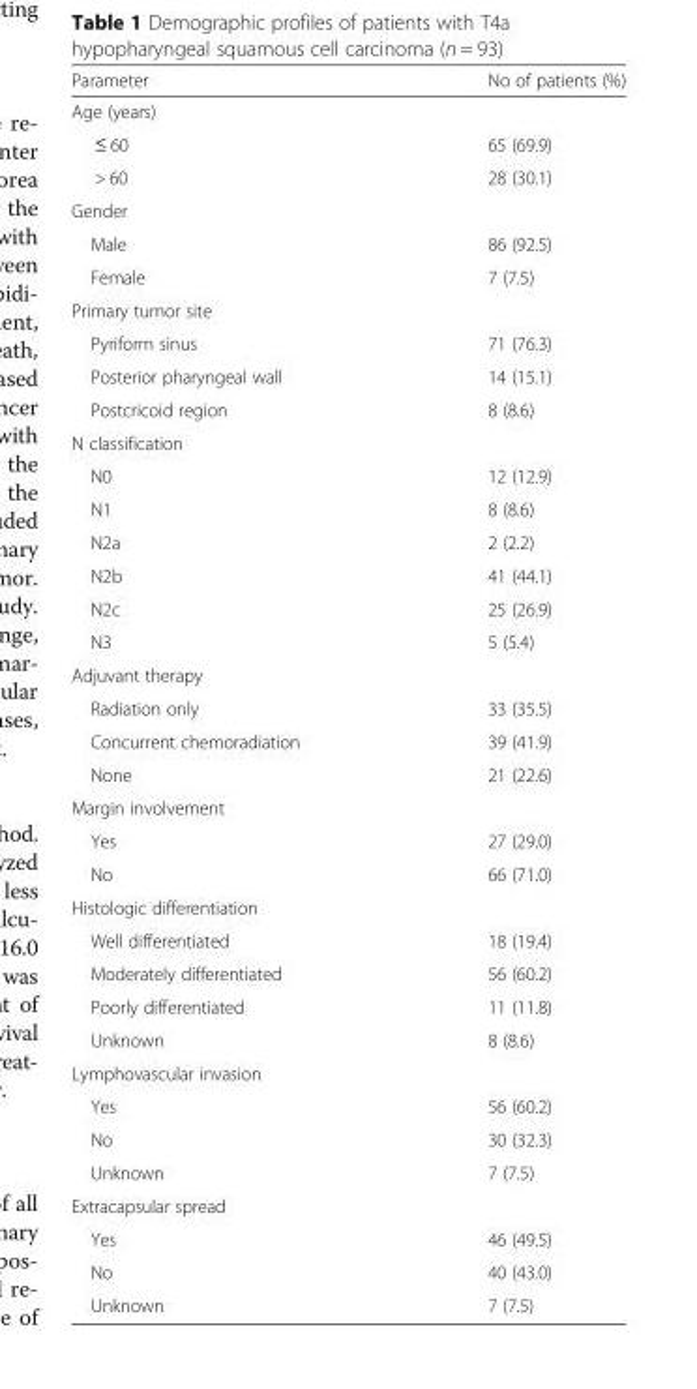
<table><thead><tr><td>Parameter</td><td>No of patients (%)</td></tr></thead><tbody><tr><td colspan="2">Age (years)</td></tr><tr><td>≤ 60</td><td>65 (69.9)</td></tr><tr><td>&gt; 60</td><td>28 (30.1)</td></tr><tr><td colspan="2">Gender</td></tr><tr><td>Male</td><td>86 (92.5)</td></tr><tr><td>Female</td><td>7 (7.5)</td></tr><tr><td colspan="2">Primary tumor site</td></tr><tr><td>Pyriform sinus</td><td>71 (76.3)</td></tr><tr><td>Posterior pharyngeal wall</td><td>14 (15.1)</td></tr><tr><td>Postcricoid region</td><td>8 (8.6)</td></tr><tr><td colspan="2">N classification</td></tr><tr><td>N0</td><td>12 (12.9)</td></tr><tr><td>N1</td><td>8 (8.6)</td></tr><tr><td>N2a</td><td>2 (2.2)</td></tr><tr><td>N2b</td><td>41 (44.1)</td></tr><tr><td>N2c</td><td>25 (26.9)</td></tr><tr><td>N3</td><td>5 (5.4)</td></tr><tr><td colspan="2">Adjuvant therapy</td></tr><tr><td>Radiation only</td><td>33 (35.5)</td></tr><tr><td>Concurrent chemoradiation</td><td>39 (41.9)</td></tr><tr><td>None</td><td>21 (22.6)</td></tr><tr><td colspan="2">Margin involvement</td></tr><tr><td>Yes</td><td>27 (29.0)</td></tr><tr><td>No</td><td>66 (71.0)</td></tr><tr><td colspan="2">Histologic differentiation</td></tr><tr><td>Well differentiated</td><td>18 (19.4)</td></tr><tr><td>Moderately differentiated</td><td>56 (60.2)</td></tr><tr><td>Poorly differentiated</td><td>11 (11.8)</td></tr><tr><td>Unknown</td><td>8 (8.6)</td></tr><tr><td colspan="2">Lymphovascular invasion</td></tr><tr><td>Yes</td><td>56 (60.2)</td></tr><tr><td>No</td><td>30 (32.3)</td></tr><tr><td>Unknown</td><td>7 (7.5)</td></tr><tr><td colspan="2">Extracapsular spread</td></tr><tr><td>Yes</td><td>46 (49.5)</td></tr><tr><td>No</td><td>40 (43.0)</td></tr><tr><td>Unknown</td><td>7 (7.5)</td></tr></tbody></table>